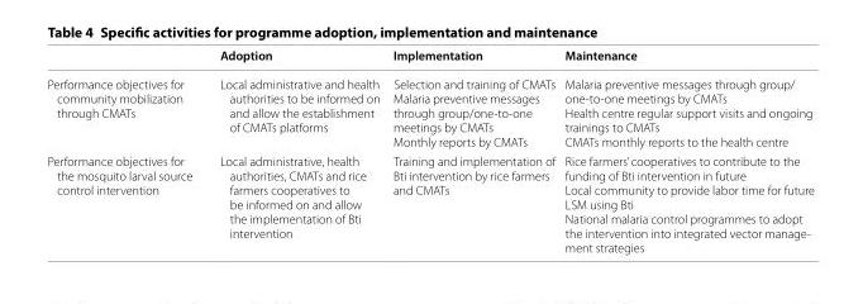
<table><thead><tr><td></td><td>Adoption</td><td>Implementation</td><td>Maintenance</td></tr></thead><tbody><tr><td>Performance objectives for community mobilization through CMATs</td><td>Local administrative and health authorities to be informed on and allow the establishment of CMATs platforms</td><td>Selection and training of CMATs Malaria preventive messages through group/one-to-one meetings by CMATs Monthly reports by CMATs</td><td>Malaria preventive messages through group/ one-to-one meetings by CMATs Health centre regular support visits and ongoing trainings to CMATs CMATs monthly reports to the health centre</td></tr><tr><td>Performance objectives for the mosquito larval source control intervention</td><td>Local administrative, health authorities, CMATs and rice farmers cooperatives to be informed on and allow the implementation of Bti intervention</td><td>Training and implementation of Bti intervention by rice farmers and CMATs</td><td>Rice farmers’ cooperatives to contribute to the funding of Bti intervention in future Local community to provide labor time for future LSM using Bti National malaria control programmes to adopt the intervention into integrated vector manage- ment strategies</td></tr></tbody></table>